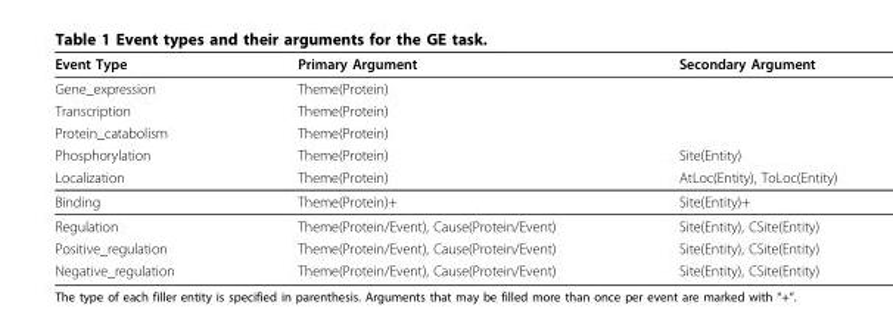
<table><thead><tr><td>Event Type</td><td>Primary Argument</td><td>Secondary Argument</td></tr></thead><tbody><tr><td>Gene_expression</td><td>Theme(Protein)</td><td></td></tr><tr><td>Transcription</td><td>Theme(Protein)</td><td></td></tr><tr><td>Protein_catabolism</td><td>Theme(Protein)</td><td></td></tr><tr><td>Phosphorylation</td><td>Theme(Protein)</td><td>Site(Entity)</td></tr><tr><td>Localization</td><td>Theme(Protein)</td><td>AtLoc(Entity), ToLoc(Entity)</td></tr><tr><td>Binding</td><td>Theme(Protein)+</td><td>Site(Entity)+</td></tr><tr><td>Regulation</td><td>Theme(Protein/Event), Cause(Protein/Event)</td><td>Site(Entity), CSite(Entity)</td></tr><tr><td>Positive_regulation</td><td>Theme(Protein/Event), Cause(Protein/Event)</td><td>Site(Entity), CSite(Entity)</td></tr><tr><td>Negative_regulation</td><td>Theme(Protein/Event), Cause(Protein/Event)</td><td>Site(Entity), CSite(Entity)</td></tr></tbody></table>